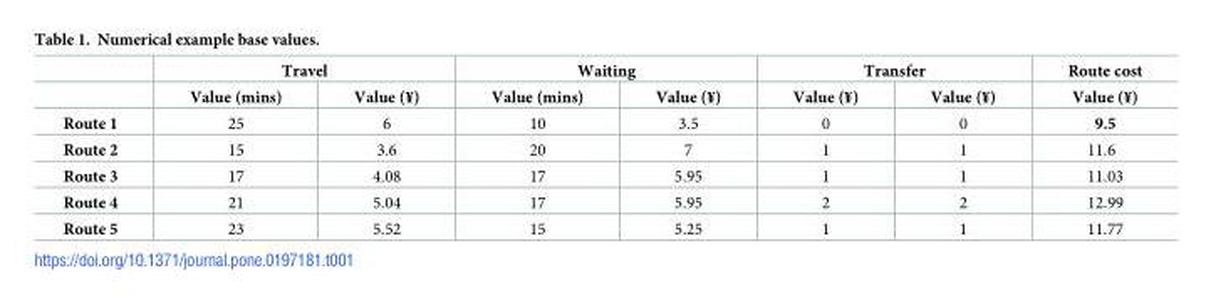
<table><thead><tr><td rowspan="2"></td><td colspan="2">Travel</td><td colspan="2">Waiting</td><td colspan="2">Transfer</td><td rowspan="2">Route cost Value (¥)</td></tr><tr><td>Value (mins)</td><td>Value (¥)</td><td>Value (mins)</td><td>Value (¥)</td><td>Value (¥)</td><td>Value (¥)</td></tr></thead><tbody><tr><td>Route 1</td><td>25</td><td>6</td><td>10</td><td>3.5</td><td>0</td><td>0</td><td>9.5</td></tr><tr><td>Route 2</td><td>15</td><td>3.6</td><td>20</td><td>7</td><td>1</td><td>1</td><td>11.6</td></tr><tr><td>Route 3</td><td>17</td><td>4.08</td><td>17</td><td>5.95</td><td>1</td><td>1</td><td>11.03</td></tr><tr><td>Route 4</td><td>21</td><td>5.04</td><td>17</td><td>5.95</td><td>2</td><td>2</td><td>12.99</td></tr><tr><td>Route 5</td><td>23</td><td>5.52</td><td>15</td><td>5.25</td><td>1</td><td>1</td><td>11.77</td></tr></tbody></table>